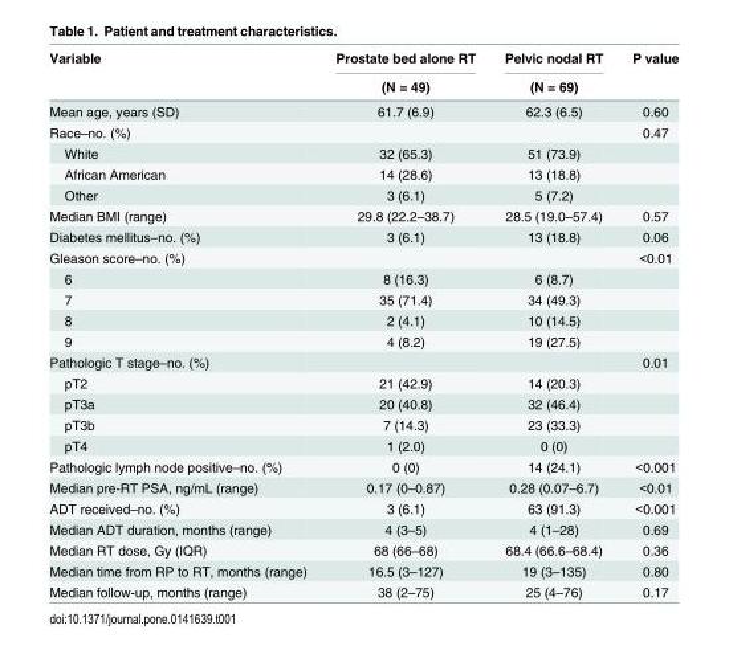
<table><thead><tr><td rowspan="2">Variable</td><td rowspan="2">Prostate bed alone RT (N = 49)</td><td rowspan="2">Pelvic nodal RT (N = 69)</td><td rowspan="2">P value</td></tr><tr></tr></thead><tbody><tr><td>Mean age, years (SD)</td><td>61.7 (6.9)</td><td>62.3 (6.5)</td><td>0.60</td></tr><tr><td>Race–no. (%)</td><td></td><td></td><td>0.47</td></tr><tr><td>White</td><td>32 (65.3)</td><td>51 (73.9)</td><td></td></tr><tr><td>African American</td><td>14 (28.6)</td><td>13 (18.8)</td><td></td></tr><tr><td>Other</td><td>3 (6.1)</td><td>5 (7.2)</td><td></td></tr><tr><td>Median BMI (range)</td><td>29.8 (22.2–38.7)</td><td>28.5 (19.0–57.4)</td><td>0.57</td></tr><tr><td>Diabetes mellitus–no. (%)</td><td>3 (6.1)</td><td>13 (18.8)</td><td>0.06</td></tr><tr><td>Gleason score–no. (%)</td><td></td><td></td><td>&lt;0.01</td></tr><tr><td>6</td><td>8 (16.3)</td><td>6 (8.7)</td><td></td></tr><tr><td>7</td><td>35 (71.4)</td><td>34 (49.3)</td><td></td></tr><tr><td>8</td><td>2 (4.1)</td><td>10 (14.5)</td><td></td></tr><tr><td>9</td><td>4 (8.2)</td><td>19 (27.5)</td><td></td></tr><tr><td>Pathologic T stage–no. (%)</td><td></td><td></td><td>0.01</td></tr><tr><td>pT2</td><td>21 (42.9)</td><td>14 (20.3)</td><td></td></tr><tr><td>pT3a</td><td>20 (40.8)</td><td>32 (46.4)</td><td></td></tr><tr><td>pT3b</td><td>7 (14.3)</td><td>23 (33.3)</td><td></td></tr><tr><td>pT4</td><td>1 (2.0)</td><td>0 (0)</td><td></td></tr><tr><td>Pathologic lymph node positive–no. (%)</td><td>0 (0)</td><td>14 (24.1)</td><td>&lt;0.001</td></tr><tr><td>Median pre-RT PSA, ng/mL (range)</td><td>0.17 (0–0.87)</td><td>0.28 (0.07–6.7)</td><td>&lt;0.01</td></tr><tr><td>ADT received–no. (%)</td><td>3 (6.1)</td><td>63 (91.3)</td><td>&lt;0.001</td></tr><tr><td>Median ADT duration, months (range)</td><td>4 (3–5)</td><td>4 (1–28)</td><td>0.69</td></tr><tr><td>Median RT dose, Gy (IQR)</td><td>68 (66–68)</td><td>68.4 (66.6–68.4)</td><td>0.36</td></tr><tr><td>Median time from RP to RT, months (range)</td><td>16.5 (3–127)</td><td>19 (3–135)</td><td>0.80</td></tr><tr><td>Median follow-up, months (range)</td><td>38 (2–75)</td><td>25 (4–76)</td><td>0.17</td></tr></tbody></table>